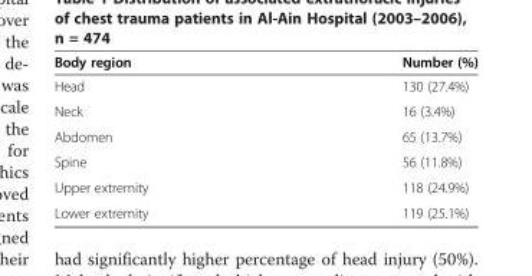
<table><thead><tr><td>Body region</td><td>Number (%)</td></tr></thead><tbody><tr><td>Head</td><td>130 (27.4%)</td></tr><tr><td>Neck</td><td>16 (3.4%)</td></tr><tr><td>Abdomen</td><td>65 (13.7%)</td></tr><tr><td>Spine</td><td>56 (11.8%)</td></tr><tr><td>Upper extremity</td><td>118 (24.9%)</td></tr><tr><td>Lower extremity</td><td>119 (25.1%)</td></tr></tbody></table>